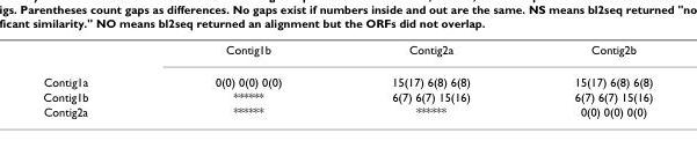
<table><thead><tr><td></td><td>Contig1b</td><td>Contig2a</td><td>Contig2b</td></tr></thead><tbody><tr><td>Contig1a</td><td>0(0) 0(0) 0(0)</td><td>15(17) 6(8) 6(8)</td><td>15(17) 6(8) 6(8)</td></tr><tr><td>Contig1b</td><td>******</td><td>6(7) 6(7) 15(16)</td><td>6(7) 6(7) 15(16)</td></tr><tr><td>Contig2a</td><td>******</td><td>******</td><td>0(0) 0(0) 0(0)</td></tr></tbody></table>